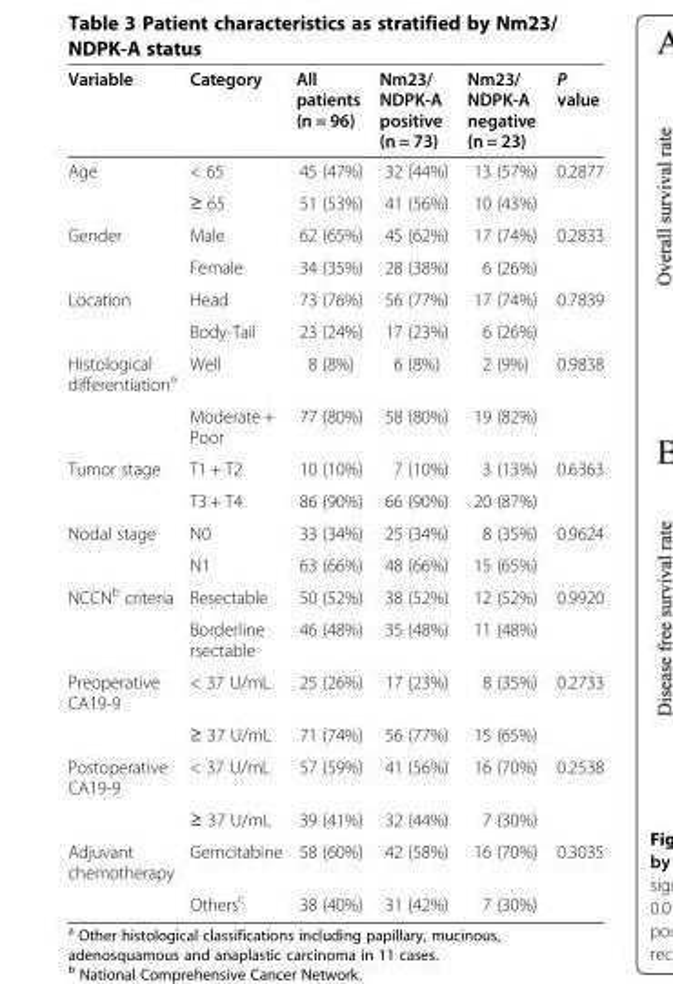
<table><thead><tr><td>Variable</td><td>Category</td><td>All patients (n = 96)</td><td>Nm23/ NDPK-A positive (n = 73)</td><td>Nm23/ NDPK-A negative (n = 23)</td><td>P value</td></tr></thead><tbody><tr><td rowspan="2">Age</td><td>&lt; 65</td><td>45 (47%)</td><td>32 (44%)</td><td>13 (57%)</td><td>0.2877</td></tr><tr><td>≥ 65</td><td>51 (53%)</td><td>41 (56%)</td><td>10 (43%)</td><td></td></tr><tr><td rowspan="2">Gender</td><td>Male</td><td>62 (65%)</td><td>45 (62%)</td><td>17 (74%)</td><td>0.2833</td></tr><tr><td>Female</td><td>34 (35%)</td><td>28 (38%)</td><td>6 (26%)</td><td></td></tr><tr><td rowspan="2">Location</td><td>Head</td><td>73 (76%)</td><td>56 (77%)</td><td>17 (74%)</td><td>0.7839</td></tr><tr><td>Body-Tail</td><td>23 (24%)</td><td>17 (23%)</td><td>6 (26%)</td><td></td></tr><tr><td rowspan="2">Histological differentiation<sup>a</sup></td><td>Well</td><td>8 (8%)</td><td>6 (8%)</td><td>2 (9%)</td><td>0.9838</td></tr><tr><td>Moderate + Poor</td><td>77 (80%)</td><td>58 (80%)</td><td>19 (82%)</td><td></td></tr><tr><td rowspan="2">Tumor stage</td><td>T1 + T2</td><td>10 (10%)</td><td>7 (10%)</td><td>3 (13%)</td><td>0.6363</td></tr><tr><td>T3 + T4</td><td>86 (90%)</td><td>66 (90%)</td><td>20 (87%)</td><td></td></tr><tr><td rowspan="2">Nodal stage</td><td>N0</td><td>33 (34%)</td><td>25 (34%)</td><td>8 (35%)</td><td>0.9624</td></tr><tr><td>N1</td><td>63 (66%)</td><td>48 (66%)</td><td>15 (65%)</td><td></td></tr><tr><td rowspan="2">NCCN<sup>b</sup> criteria</td><td>Resectable</td><td>50 (52%)</td><td>38 (52%)</td><td>12 (52%)</td><td>0.9920</td></tr><tr><td>Borderline rsectable</td><td>46 (48%)</td><td>35 (48%)</td><td>11 (48%)</td><td></td></tr><tr><td rowspan="2">Preoperative CA19-9</td><td>&lt; 37 U/mL</td><td>25 (26%)</td><td>17 (23%)</td><td>8 (35%)</td><td>0.2733</td></tr><tr><td>≥ 37 U/mL</td><td>71 (74%)</td><td>56 (77%)</td><td>15 (65%)</td><td></td></tr><tr><td rowspan="2">Postoperative CA19-9</td><td>&lt; 37 U/mL</td><td>57 (59%)</td><td>41 (56%)</td><td>16 (70%)</td><td>0.2538</td></tr><tr><td>≥ 37 U/mL</td><td>39 (41%)</td><td>32 (44%)</td><td>7 (30%)</td><td></td></tr><tr><td rowspan="2">Adjuvant chemotherapy</td><td>Gemcitabine</td><td>58 (60%)</td><td>42 (58%)</td><td>16 (70%)</td><td>0.3035</td></tr><tr><td>Others<sup>c</sup></td><td>38 (40%)</td><td>31 (42%)</td><td>7 (30%)</td><td></td></tr></tbody></table>